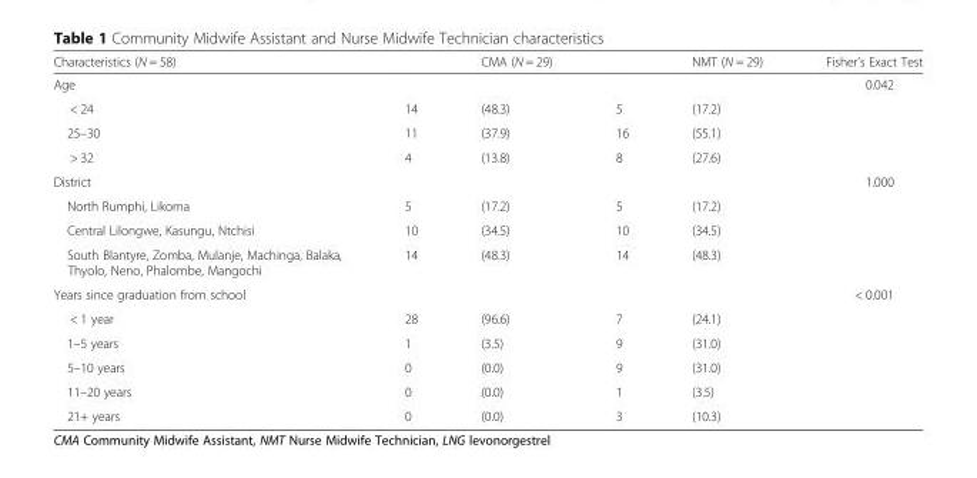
<table><thead><tr><td>Characteristics (N = 58)</td><td></td><td>CMA (N = 29)</td><td></td><td>NMT (N = 29)</td><td>Fisher’s Exact Test</td></tr></thead><tbody><tr><td>Age</td><td></td><td></td><td></td><td></td><td>0.042</td></tr><tr><td>&lt; 24</td><td>14</td><td>(48.3)</td><td>5</td><td>(17.2)</td><td></td></tr><tr><td>25–30</td><td>11</td><td>(37.9)</td><td>16</td><td>(55.1)</td><td></td></tr><tr><td>&gt; 32</td><td>4</td><td>(13.8)</td><td>8</td><td>(27.6)</td><td></td></tr><tr><td>District</td><td></td><td></td><td></td><td></td><td>1.000</td></tr><tr><td>North Rumphi, Likoma</td><td>5</td><td>(17.2)</td><td>5</td><td>(17.2)</td><td></td></tr><tr><td>Central Lilongwe, Kasungu, Ntchisi</td><td>10</td><td>(34.5)</td><td>10</td><td>(34.5)</td><td></td></tr><tr><td>South Blantyre, Zomba, Mulanje, Machinga, Balaka, Thyolo, Neno, Phalombe, Mangochi</td><td>14</td><td>(48.3)</td><td>14</td><td>(48.3)</td><td></td></tr><tr><td>Years since graduation from school</td><td></td><td></td><td></td><td></td><td>&lt; 0.001</td></tr><tr><td>&lt; 1 year</td><td>28</td><td>(96.6)</td><td>7</td><td>(24.1)</td><td></td></tr><tr><td>1–5 years</td><td>1</td><td>(3.5)</td><td>9</td><td>(31.0)</td><td></td></tr><tr><td>5–10 years</td><td>0</td><td>(0.0)</td><td>9</td><td>(31.0)</td><td></td></tr><tr><td>11–20 years</td><td>0</td><td>(0.0)</td><td>1</td><td>(3.5)</td><td></td></tr><tr><td>21+ years</td><td>0</td><td>(0.0)</td><td>3</td><td>(10.3)</td><td></td></tr></tbody></table>